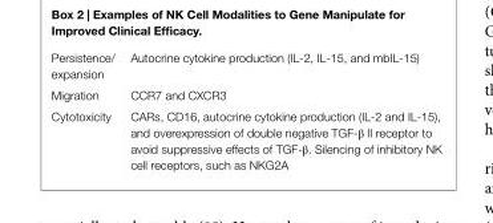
<table><tbody><tr><td>Persistence/ expansion</td><td>Autocrine cytokine production (IL-2, IL-15, and mbIL-15)</td></tr><tr><td>Migration</td><td>CCR7 and CXCR3</td></tr><tr><td>Cytotoxicity</td><td>CARs, CD16, autocrine cytokine production (IL-2 and IL-15), and overexpression of double negative TGF-β II receptor to avoid suppressive effects of TGF-β. Silencing of inhibitory NK cell receptors, such as NKG2A</td></tr></tbody></table>